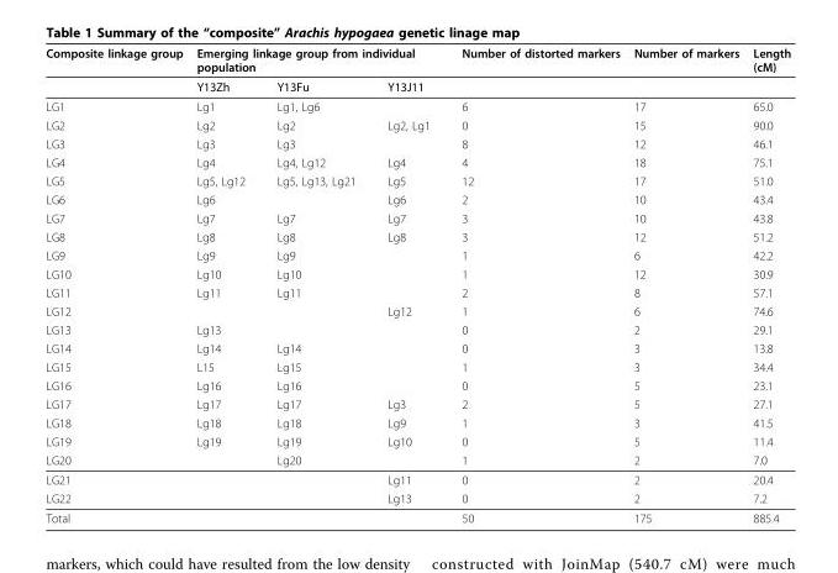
<table><thead><tr><td rowspan="2">Composite linkage group</td><td colspan="3">Emerging linkage group from individual population</td><td rowspan="2">Number of distorted markers</td><td rowspan="2">Number of markers</td><td rowspan="2">Length (cM)</td></tr><tr><td>Y13Zh</td><td>Y13Fu</td><td>Y13J11</td></tr></thead><tbody><tr><td>LG1</td><td>Lg1</td><td>Lg1, Lg6</td><td></td><td>6</td><td>17</td><td>65.0</td></tr><tr><td>LG2</td><td>Lg2</td><td>Lg2</td><td>Lg2, Lg1</td><td>0</td><td>15</td><td>90.0</td></tr><tr><td>LG3</td><td>Lg3</td><td>Lg3</td><td></td><td>8</td><td>12</td><td>46.1</td></tr><tr><td>LG4</td><td>Lg4</td><td>Lg4, Lg12</td><td>Lg4</td><td>4</td><td>18</td><td>75.1</td></tr><tr><td>LG5</td><td>Lg5, Lg12</td><td>Lg5, Lg13, Lg21</td><td>Lg5</td><td>12</td><td>17</td><td>51.0</td></tr><tr><td>LG6</td><td>Lg6</td><td></td><td>Lg6</td><td>2</td><td>10</td><td>43.4</td></tr><tr><td>LG7</td><td>Lg7</td><td>Lg7</td><td>Lg7</td><td>3</td><td>10</td><td>43.8</td></tr><tr><td>LG8</td><td>Lg8</td><td>Lg8</td><td>Lg8</td><td>3</td><td>12</td><td>51.2</td></tr><tr><td>LG9</td><td>Lg9</td><td>Lg9</td><td></td><td>1</td><td>6</td><td>42.2</td></tr><tr><td>LG10</td><td>Lg10</td><td>Lg10</td><td></td><td>1</td><td>12</td><td>30.9</td></tr><tr><td>LG11</td><td>Lg11</td><td>Lg11</td><td></td><td>2</td><td>8</td><td>57.1</td></tr><tr><td>LG12</td><td></td><td></td><td>Lg12</td><td>1</td><td>6</td><td>74.6</td></tr><tr><td>LG13</td><td>Lg13</td><td></td><td></td><td>0</td><td>2</td><td>29.1</td></tr><tr><td>LG14</td><td>Lg14</td><td>Lg14</td><td></td><td>0</td><td>3</td><td>13.8</td></tr><tr><td>LG15</td><td>L15</td><td>Lg15</td><td></td><td>1</td><td>3</td><td>34.4</td></tr><tr><td>LG16</td><td>Lg16</td><td>Lg16</td><td></td><td>0</td><td>5</td><td>23.1</td></tr><tr><td>LG17</td><td>Lg17</td><td>Lg17</td><td>Lg3</td><td>2</td><td>5</td><td>27.1</td></tr><tr><td>LG18</td><td>Lg18</td><td>Lg18</td><td>Lg9</td><td>1</td><td>3</td><td>41.5</td></tr><tr><td>LG19</td><td>Lg19</td><td>Lg19</td><td>Lg10</td><td>0</td><td>5</td><td>11.4</td></tr><tr><td>LG20</td><td></td><td>Lg20</td><td></td><td>1</td><td>2</td><td>7.0</td></tr><tr><td>LG21</td><td></td><td></td><td>Lg11</td><td>0</td><td>2</td><td>20.4</td></tr><tr><td>LG22</td><td></td><td></td><td>Lg13</td><td>0</td><td>2</td><td>7.2</td></tr><tr><td>Total</td><td></td><td></td><td></td><td>50</td><td>175</td><td>885.4</td></tr></tbody></table>